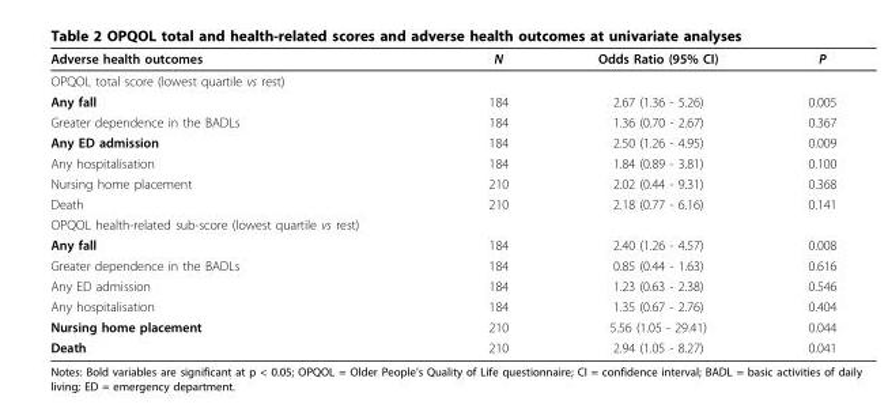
<table><thead><tr><td>Adverse health outcomes</td><td>N</td><td>Odds Ratio (95% CI)</td><td>P</td></tr></thead><tbody><tr><td colspan="4">OPQOL total score (lowest quartile vs rest)</td></tr><tr><td>Any fall</td><td>184</td><td>2.67 (1.36 - 5.26)</td><td>0.005</td></tr><tr><td>Greater dependence in the BADLs</td><td>184</td><td>1.36 (0.70 - 2.67)</td><td>0.367</td></tr><tr><td>Any ED admission</td><td>184</td><td>2.50 (1.26 - 4.95)</td><td>0.009</td></tr><tr><td>Any hospitalisation</td><td>184</td><td>1.84 (0.89 - 3.81)</td><td>0.100</td></tr><tr><td>Nursing home placement</td><td>210</td><td>2.02 (0.44 - 9.31)</td><td>0.368</td></tr><tr><td>Death</td><td>210</td><td>2.18 (0.77 - 6.16)</td><td>0.141</td></tr><tr><td colspan="4">OPQOL health-related sub-score (lowest quartile vs rest)</td></tr><tr><td>Any fall</td><td>184</td><td>2.40 (1.26 - 4.57)</td><td>0.008</td></tr><tr><td>Greater dependence in the BADLs</td><td>184</td><td>0.85 (0.44 - 1.63)</td><td>0.616</td></tr><tr><td>Any ED admission</td><td>184</td><td>1.23 (0.63 - 2.38)</td><td>0.546</td></tr><tr><td>Any hospitalisation</td><td>184</td><td>1.35 (0.67 - 2.76)</td><td>0.404</td></tr><tr><td>Nursing home placement</td><td>210</td><td>5.56 (1.05 - 29.41)</td><td>0.044</td></tr><tr><td>Death</td><td>210</td><td>2.94 (1.05 - 8.27)</td><td>0.041</td></tr></tbody></table>